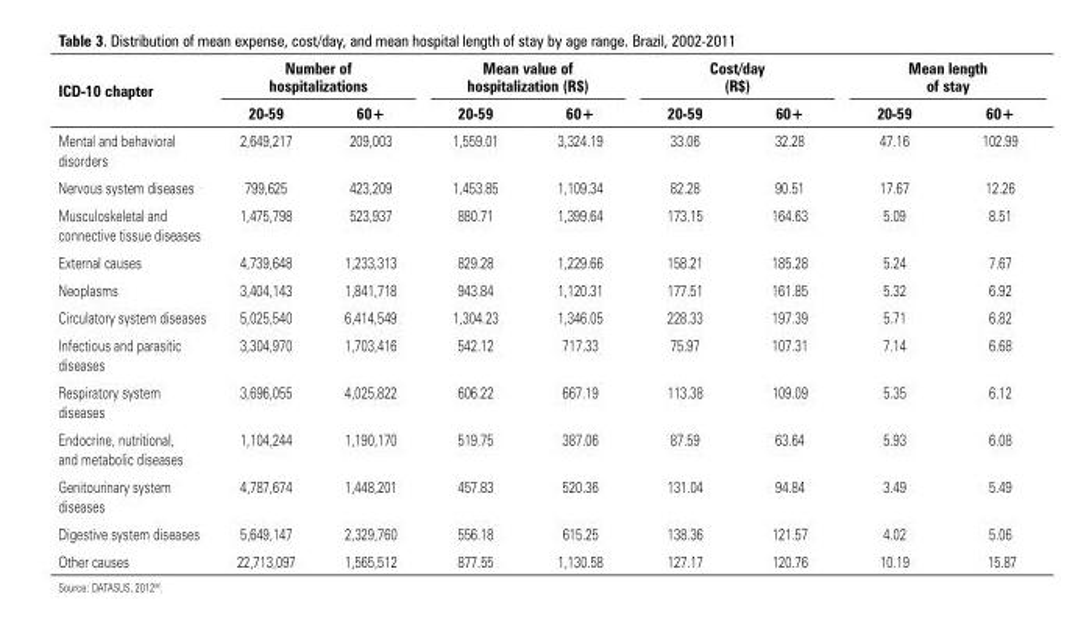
<table><thead><tr><td rowspan="2">icd-10 chapter</td><td colspan="2">number of hospitalizations</td><td colspan="2">mean value of hospitalization (R$)</td><td colspan="2">cost/day (R$)</td><td colspan="2">mean length of stay</td></tr><tr><td>20-59</td><td>60+</td><td>20-59</td><td>60+</td><td>20-59</td><td>60+</td><td>20-59</td><td>60+</td></tr></thead><tbody><tr><td>Mental and behavioral disorders</td><td>2,649,217</td><td>209,003</td><td>1,559.01</td><td>3,324.19</td><td>33.06</td><td>32.28</td><td>47.16</td><td>102.99</td></tr><tr><td>Nervous system diseases</td><td>799,625</td><td>423,209</td><td>1,453.85</td><td>1,109.34</td><td>82.28</td><td>90.51</td><td>17.67</td><td>12.26</td></tr><tr><td>Musculoskeletal and connective tissue diseases</td><td>1,475,798</td><td>523,937</td><td>880.71</td><td>1,399.64</td><td>173.15</td><td>164.63</td><td>5.09</td><td>8.51</td></tr><tr><td>External causes</td><td>4,739,648</td><td>1,233,313</td><td>829.28</td><td>1,229.66</td><td>158.21</td><td>185.28</td><td>5.24</td><td>7.67</td></tr><tr><td>Neoplasms</td><td>3,404,143</td><td>1,841,718</td><td>943.84</td><td>1,120.31</td><td>177.51</td><td>161.85</td><td>5.32</td><td>6.92</td></tr><tr><td>Circulatory system diseases</td><td>5,025,540</td><td>6,414,549</td><td>1,304.23</td><td>1,346.05</td><td>228.33</td><td>197.39</td><td>5.71</td><td>6.82</td></tr><tr><td>Infectious and parasitic diseases</td><td>3,304,970</td><td>1,703,416</td><td>542.12</td><td>717.33</td><td>75.97</td><td>107.31</td><td>7.14</td><td>6.68</td></tr><tr><td>Respiratory system diseases</td><td>3,696,055</td><td>4,025,822</td><td>606.22</td><td>667.19</td><td>113.38</td><td>109.09</td><td>5.35</td><td>6.12</td></tr><tr><td>Endocrine, nutritional, and metabolic diseases</td><td>1,104,244</td><td>1,190,170</td><td>519.75</td><td>387.06</td><td>87.59</td><td>63.64</td><td>5.93</td><td>6.08</td></tr><tr><td>Genitourinary system diseases</td><td>4,787,674</td><td>1,448,201</td><td>457.83</td><td>520.36</td><td>131.04</td><td>94.84</td><td>3.49</td><td>5.49</td></tr><tr><td>Digestive system diseases</td><td>5,649,147</td><td>2,329,760</td><td>556.18</td><td>615.25</td><td>138.36</td><td>121.57</td><td>4.02</td><td>5.06</td></tr><tr><td>Other causes</td><td>22,713,097</td><td>1,565,512</td><td>877.55</td><td>1,130.58</td><td>127.17</td><td>120.76</td><td>10.19</td><td>15.87</td></tr></tbody></table>